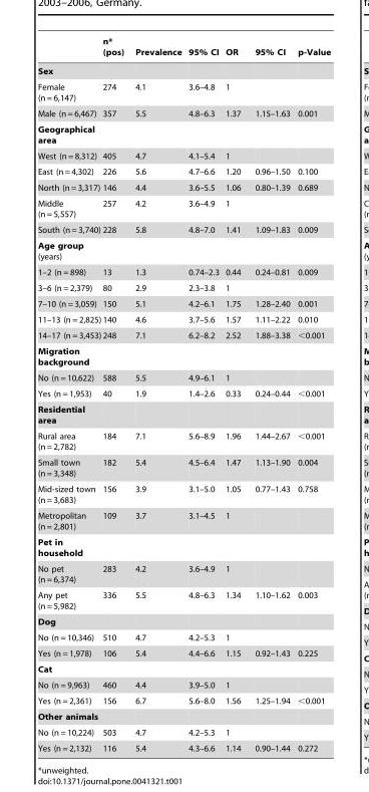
<table><thead><tr><td></td><td>n* (pos)</td><td>Prevalence</td><td>95% CI</td><td>OR</td><td>95% CI</td><td>p-Value</td></tr></thead><tbody><tr><td colspan="7">Sex</td></tr><tr><td>Female (n = 6,147)</td><td>274</td><td>4.1</td><td>3.6–4.8</td><td>1</td><td></td><td></td></tr><tr><td>Male (n = 6,467)</td><td>357</td><td>5.5</td><td>4.8–6.3</td><td>1.37</td><td>1.15–1.63</td><td>0.001</td></tr><tr><td colspan="7">Geographical area</td></tr><tr><td>West (n = 8,312)</td><td>405</td><td>4.7</td><td>4.1–5.4</td><td>1</td><td></td><td></td></tr><tr><td>East (n = 4,302)</td><td>226</td><td>5.6</td><td>4.7–6.6</td><td>1.20</td><td>0.96–1.50</td><td>0.100</td></tr><tr><td>North (n = 3,317)</td><td>146</td><td>4.4</td><td>3.6–5.5</td><td>1.06</td><td>0.80–1.39</td><td>0.689</td></tr><tr><td>Middle (n = 5,557)</td><td>257</td><td>4.2</td><td>3.6–4.9</td><td>1</td><td></td><td></td></tr><tr><td>South (n = 3,740)</td><td>228</td><td>5.8</td><td>4.8–7.0</td><td>1.41</td><td>1.09–1.83</td><td>0.009</td></tr><tr><td colspan="7">Age group (years)</td></tr><tr><td>1–2 (n = 898)</td><td>13</td><td>1.3</td><td>0.74–2.3</td><td>0.44</td><td>0.24–0.81</td><td>0.009</td></tr><tr><td>3–6 (n = 2,379)</td><td>80</td><td>2.9</td><td>2.3–3.8</td><td>1</td><td></td><td></td></tr><tr><td>7–10 (n = 3,059)</td><td>150</td><td>5.1</td><td>4.2–6.1</td><td>1.75</td><td>1.28–2.40</td><td>0.001</td></tr><tr><td>11–13 (n = 2,825)</td><td>140</td><td>4.6</td><td>3.7–5.6</td><td>1.57</td><td>1.11–2.22</td><td>0.010</td></tr><tr><td>14–17 (n = 3,453)</td><td>248</td><td>7.1</td><td>6.2–8.2</td><td>2.52</td><td>1.88–3.38</td><td>&lt;0.001</td></tr><tr><td colspan="7">Migration background</td></tr><tr><td>No (n = 10,622)</td><td>588</td><td>5.5</td><td>4.9–6.1</td><td>1</td><td></td><td></td></tr><tr><td>Yes (n = 1,953)</td><td>40</td><td>1.9</td><td>1.4–2.6</td><td>0.33</td><td>0.24–0.44</td><td>&lt;0.001</td></tr><tr><td colspan="7">Residential area</td></tr><tr><td>Rural area (n = 2,782)</td><td>184</td><td>7.1</td><td>5.6–8.9</td><td>1.96</td><td>1.44–2.67</td><td>&lt;0.001</td></tr><tr><td>Small town (n = 3,348)</td><td>182</td><td>5.4</td><td>4.5–6.4</td><td>1.47</td><td>1.13–1.90</td><td>0.004</td></tr><tr><td>Mid-sized town (n = 3,683)</td><td>156</td><td>3.9</td><td>3.1–5.0</td><td>1.05</td><td>0.77–1.43</td><td>0.758</td></tr><tr><td>Metropolitan (n = 2,801)</td><td>109</td><td>3.7</td><td>3.1–4.5</td><td>1</td><td></td><td></td></tr><tr><td colspan="7">Pet in household</td></tr><tr><td>No pet (n = 6,374)</td><td>283</td><td>4.2</td><td>3.6–4.9</td><td>1</td><td></td><td></td></tr><tr><td>Any pet (n = 5,982)</td><td>336</td><td>5.5</td><td>4.8–6.3</td><td>1.34</td><td>1.10–1.62</td><td>0.003</td></tr><tr><td colspan="7">Dog</td></tr><tr><td>No (n = 10,346)</td><td>510</td><td>4.7</td><td>4.2–5.3</td><td>1</td><td></td><td></td></tr><tr><td>Yes (n = 1,978)</td><td>106</td><td>5.4</td><td>4.4–6.6</td><td>1.15</td><td>0.92–1.43</td><td>0.225</td></tr><tr><td colspan="7">Cat</td></tr><tr><td>No (n = 9,963)</td><td>460</td><td>4.4</td><td>3.9–5.0</td><td>1</td><td></td><td></td></tr><tr><td>Yes (n = 2,361)</td><td>156</td><td>6.7</td><td>5.6–8.0</td><td>1.56</td><td>1.25–1.94</td><td>&lt;0.001</td></tr><tr><td colspan="7">Other animals</td></tr><tr><td>No (n = 10,224)</td><td>503</td><td>4.7</td><td>4.2–5.3</td><td>1</td><td></td><td></td></tr><tr><td>Yes (n = 2,132)</td><td>116</td><td>5.4</td><td>4.3–6.6</td><td>1.14</td><td>0.90–1.44</td><td>0.272</td></tr></tbody></table>